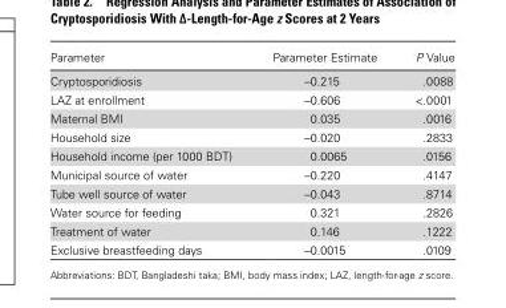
<table><thead><tr><td>Parameter</td><td>Parameter Estimate</td><td>P Value</td></tr></thead><tbody><tr><td>Cryptosporidiosis</td><td>–0.215</td><td>.0088</td></tr><tr><td>LAZ at enrollment</td><td>–0.606</td><td>&lt;.0001</td></tr><tr><td>Maternal BMI</td><td>0.035</td><td>.0016</td></tr><tr><td>Household size</td><td>–0.020</td><td>.2833</td></tr><tr><td>Household income (per 1000 BDT)</td><td>0.0065</td><td>.0156</td></tr><tr><td>Municipal source of water</td><td>–0.220</td><td>.4147</td></tr><tr><td>Tube well source of water</td><td>–0.043</td><td>.8714</td></tr><tr><td>Water source for feeding</td><td>0.321</td><td>.2826</td></tr><tr><td>Treatment of water</td><td>0.146</td><td>.1222</td></tr><tr><td>Exclusive breastfeeding days</td><td>–0.0015</td><td>.0109</td></tr></tbody></table>